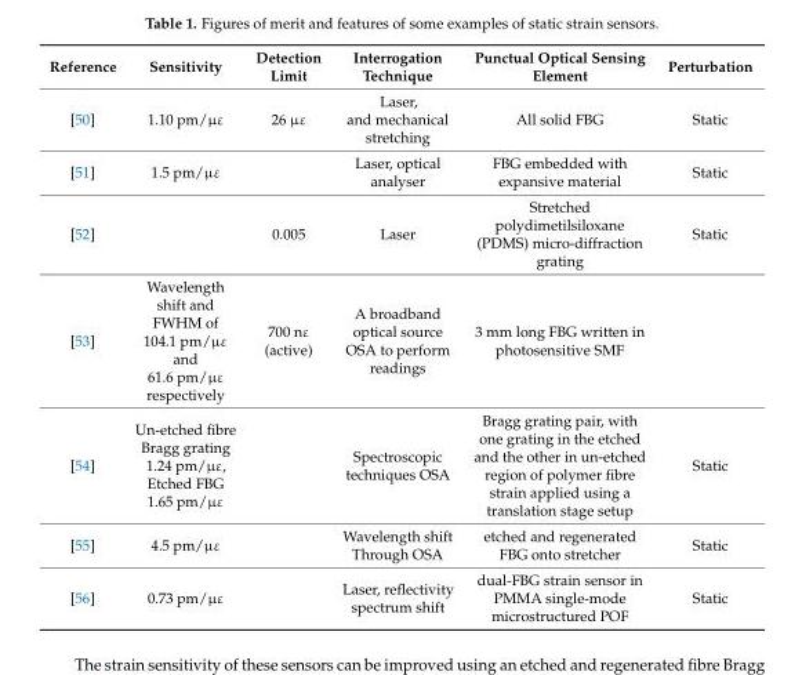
<table><thead><tr><td>Reference</td><td>Sensitivity</td><td>Detection Limit</td><td>Interrogation Technique</td><td>Punctual Optical Sensing Element</td><td>Perturbation</td></tr></thead><tbody><tr><td>[50]</td><td>1.10 pm/µε</td><td>26 µε</td><td>Laser, and mechanical stretching</td><td>All solid FBG</td><td>Static</td></tr><tr><td>[51]</td><td>1.5 pm/µε</td><td></td><td>Laser, optical analyser</td><td>FBG embedded with expansive material</td><td>Static</td></tr><tr><td>[52]</td><td></td><td>0.005</td><td>Laser</td><td>Stretched polydimetilsiloxane (PDMS) micro-diffraction grating</td><td>Static</td></tr><tr><td>[53]</td><td>Wavelength shift and FWHM of 104.1 pm/µε and 61.6 pm/µε respectively</td><td>700 nε (active)</td><td>A broadband optical source OSA to perform readings</td><td>3 mm long FBG written in photosensitive SMF</td><td></td></tr><tr><td>[54]</td><td>Un-etched fibre Bragg grating 1.24 pm/µε, Etched FBG 1.65 pm/µε</td><td></td><td>Spectroscopic techniques OSA</td><td>Bragg grating pair, with one grating in the etched and the other in un-etched region of polymer fibre strain applied using a translation stage setup</td><td>Static</td></tr><tr><td>[55]</td><td>4.5 pm/µε</td><td></td><td>Wavelength shift Through OSA</td><td>etched and regenerated FBG onto stretcher</td><td>Static</td></tr><tr><td>[56]</td><td>0.73 pm/µε</td><td></td><td>Laser, reflectivity spectrum shift</td><td>dual-FBG strain sensor in PMMA single-mode microstructured POF</td><td>Static</td></tr></tbody></table>